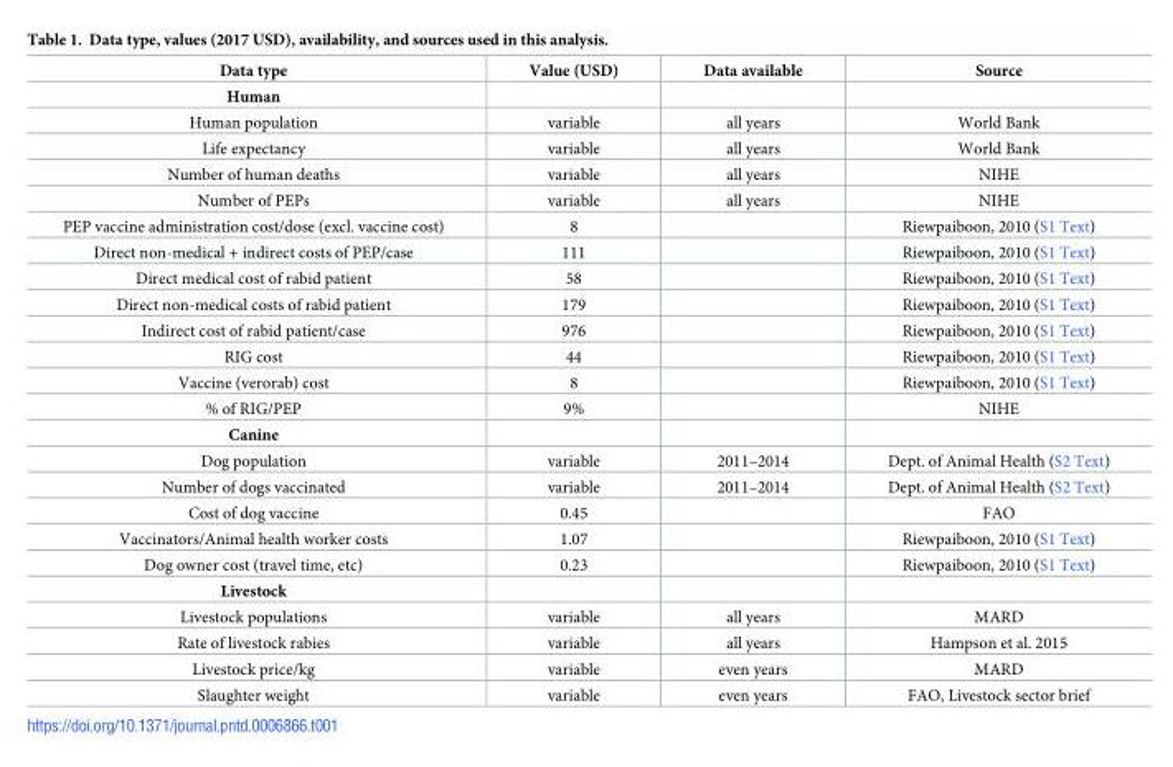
<table><thead><tr><td>Data type</td><td>Value (USD)</td><td>Data available</td><td>Source</td></tr></thead><tbody><tr><td colspan="4">Human</td></tr><tr><td>Human population</td><td>variable</td><td>all years</td><td>World Bank</td></tr><tr><td>Life expectancy</td><td>variable</td><td>all years</td><td>World Bank</td></tr><tr><td>Number of human deaths</td><td>variable</td><td>all years</td><td>NIHE</td></tr><tr><td>Number of PEPs</td><td>variable</td><td>all years</td><td>NIHE</td></tr><tr><td>PEP vaccine administration cost/dose (excl. vaccine cost)</td><td>8</td><td></td><td>Riewpaiboon, 2010 (S1 Text)</td></tr><tr><td>Direct non-medical + indirect costs of PEP/case</td><td>111</td><td></td><td>Riewpaiboon, 2010 (S1 Text)</td></tr><tr><td>Direct medical cost of rabid patient</td><td>58</td><td></td><td>Riewpaiboon, 2010 (S1 Text)</td></tr><tr><td>Direct non-medical costs of rabid patient</td><td>179</td><td></td><td>Riewpaiboon, 2010 (S1 Text)</td></tr><tr><td>Indirect cost of rabid patient/case</td><td>976</td><td></td><td>Riewpaiboon, 2010 (S1 Text)</td></tr><tr><td>RIG cost</td><td>44</td><td></td><td>Riewpaiboon, 2010 (S1 Text)</td></tr><tr><td>Vaccine (verorab) cost</td><td>8</td><td></td><td>Riewpaiboon, 2010 (S1 Text)</td></tr><tr><td>% of RIG/PEP</td><td>9%</td><td></td><td>NIHE</td></tr><tr><td colspan="4">Canine</td></tr><tr><td>Dog population</td><td>variable</td><td>2011–2014</td><td>Dept. of Animal Health (S2 Text)</td></tr><tr><td>Number of dogs vaccinated</td><td>variable</td><td>2011–2014</td><td>Dept. of Animal Health (S2 Text)</td></tr><tr><td>Cost of dog vaccine</td><td>0.45</td><td></td><td>FAO</td></tr><tr><td>Vaccinators/Animal health worker costs</td><td>1.07</td><td></td><td>Riewpaiboon, 2010 (S1 Text)</td></tr><tr><td>Dog owner cost (travel time, etc)</td><td>0.23</td><td></td><td>Riewpaiboon, 2010 (S1 Text)</td></tr><tr><td colspan="4">Livestock</td></tr><tr><td>Livestock populations</td><td>variable</td><td>all years</td><td>MARD</td></tr><tr><td>Rate of livestock rabies</td><td>variable</td><td>all years</td><td>Hampson et al. 2015</td></tr><tr><td>Livestock price/kg</td><td>variable</td><td>even years</td><td>MARD</td></tr><tr><td>Slaughter weight</td><td>variable</td><td>even years</td><td>FAO, Livestock sector brief</td></tr></tbody></table>